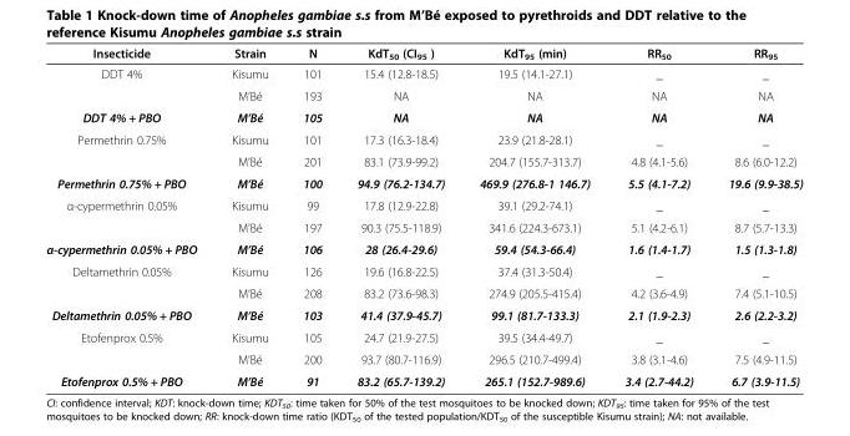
<table><thead><tr><td>Insecticide</td><td>Strain</td><td>N</td><td>KdT<sub>50</sub> (CI<sub>95</sub> )</td><td>KdT<sub>95</sub> (min)</td><td>RR<sub>50</sub></td><td>RR<sub>95</sub></td></tr></thead><tbody><tr><td rowspan="2">DDT 4%</td><td>Kisumu</td><td>101</td><td>15.4 (12.8-18.5)</td><td>19.5 (14.1-27.1)</td><td>_</td><td>_</td></tr><tr><td>M’Bé</td><td>193</td><td>NA</td><td>NA</td><td>NA</td><td>NA</td></tr><tr><td>DDT 4% + PBO</td><td>M’Bé</td><td>105</td><td>NA</td><td>NA</td><td>NA</td><td>NA</td></tr><tr><td rowspan="2">Permethrin 0.75%</td><td>Kisumu</td><td>101</td><td>17.3 (16.3-18.4)</td><td>23.9 (21.8-28.1)</td><td>_</td><td>_</td></tr><tr><td>M’Bé</td><td>201</td><td>83.1 (73.9-99.2)</td><td>204.7 (155.7-313.7)</td><td>4.8 (4.1-5.6)</td><td>8.6 (6.0-12.2)</td></tr><tr><td>Permethrin 0.75% + PBO</td><td>M’Bé</td><td>100</td><td>94.9 (76.2-134.7)</td><td>469.9 (276.8-1 146.7)</td><td>5.5 (4.1-7.2)</td><td>19.6 (9.9-38.5)</td></tr><tr><td rowspan="2">α-cypermethrin 0.05%</td><td>Kisumu</td><td>99</td><td>17.8 (12.9-22.8)</td><td>39.1 (29.2-74.1)</td><td>_</td><td>_</td></tr><tr><td>M’Bé</td><td>197</td><td>90.3 (75.5-118.9)</td><td>341.6 (224.3-673.1)</td><td>5.1 (4.2-6.1)</td><td>8.7 (5.7-13.3)</td></tr><tr><td>α-cypermethrin 0.05% + PBO</td><td>M’Bé</td><td>106</td><td>28 (26.4-29.6)</td><td>59.4 (54.3-66.4)</td><td>1.6 (1.4-1.7)</td><td>1.5 (1.3-1.8)</td></tr><tr><td rowspan="2">Deltamethrin 0.05%</td><td>Kisumu</td><td>126</td><td>19.6 (16.8-22.5)</td><td>37.4 (31.3-50.4)</td><td>_</td><td>_</td></tr><tr><td>M’Bé</td><td>208</td><td>83.2 (73.6-98.3)</td><td>274.9 (205.5-415.4)</td><td>4.2 (3.6-4.9)</td><td>7.4 (5.1-10.5)</td></tr><tr><td>Deltamethrin 0.05% + PBO</td><td>M’Bé</td><td>103</td><td>41.4 (37.9-45.7)</td><td>99.1 (81.7-133.3)</td><td>2.1 (1.9-2.3)</td><td>2.6 (2.2-3.2)</td></tr><tr><td rowspan="2">Etofenprox 0.5%</td><td>Kisumu</td><td>105</td><td>24.7 (21.9-27.5)</td><td>39.5 (34.4-49.7)</td><td>_</td><td>_</td></tr><tr><td>M’Bé</td><td>200</td><td>93.7 (80.7-116.9)</td><td>296.5 (210.7-499.4)</td><td>3.8 (3.1-4.6)</td><td>7.5 (4.9-11.5)</td></tr><tr><td>Etofenprox 0.5% + PBO</td><td>M’Bé</td><td>91</td><td>83.2 (65.7-139.2)</td><td>265.1 (152.7-989.6)</td><td>3.4 (2.7-44.2)</td><td>6.7 (3.9-11.5)</td></tr></tbody></table>